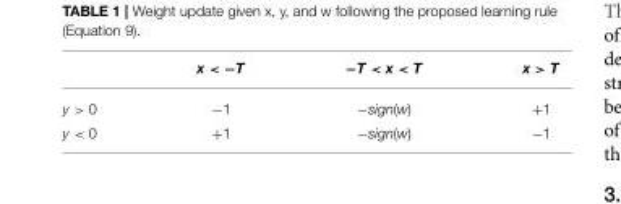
<table><thead><tr><td></td><td>x &lt; −T</td><td>−T &lt; x &lt; T</td><td>x &gt; T</td></tr></thead><tbody><tr><td>y &gt; 0</td><td>−1</td><td>−sign(w)</td><td>+1</td></tr><tr><td>y &lt; 0</td><td>+1</td><td>−sign(w)</td><td>−1</td></tr></tbody></table>